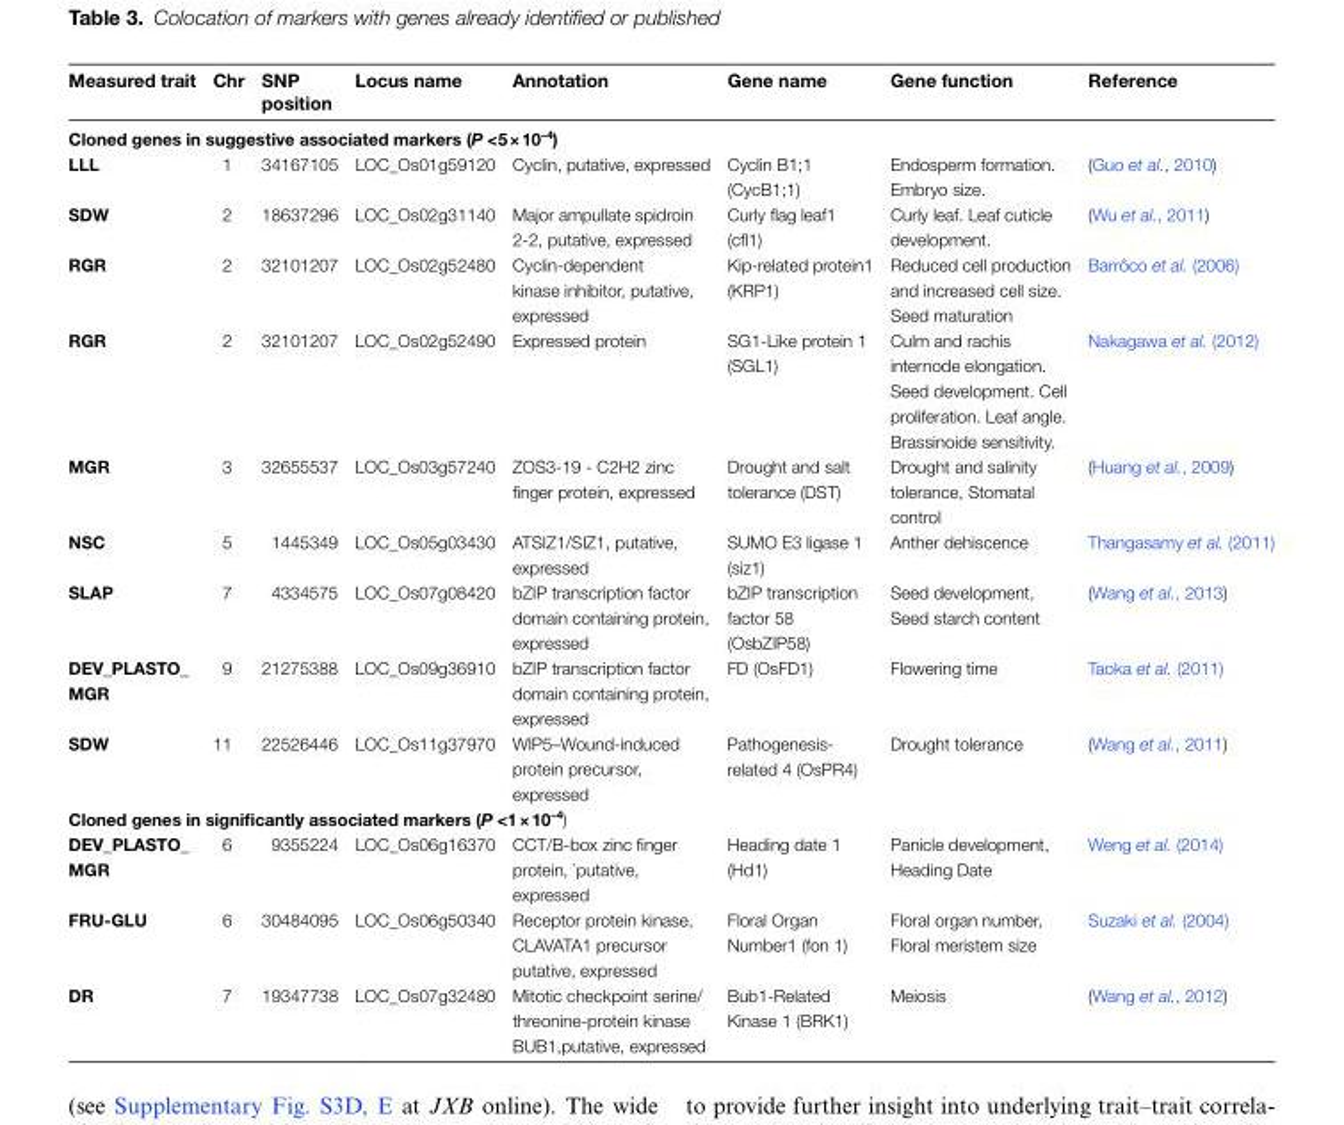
<table><thead><tr><td>Measured trait</td><td>Chr</td><td>SNP position</td><td>Locus name</td><td>Annotation</td><td>Gene name</td><td>Gene function</td><td>Reference</td></tr></thead><tbody><tr><td colspan="8">Cloned genes in suggestive associated markers (P &lt;5 × 10<sup>–4</sup>)</td></tr><tr><td>LLL</td><td>1</td><td>34167105</td><td>LOC_Os01g59120</td><td>Cyclin, putative, expressed</td><td>Cyclin B1;1 (CycB1;1)</td><td>Endosperm formation. Embryo size.</td><td>(Guo et al., 2010)</td></tr><tr><td>SDW</td><td>2</td><td>18637296</td><td>LOC_Os02g31140</td><td>Major ampullate spidroin 2-2, putative, expressed</td><td>Curly flag leaf1 (cfl1)</td><td>Curly leaf. Leaf cuticle development.</td><td>(Wu et al., 2011)</td></tr><tr><td>RGR</td><td>2</td><td>32101207</td><td>LOC_Os02g52480</td><td>Cyclin-dependent kinase inhibitor, putative, expressed</td><td>Kip-related protein1 (KRP1)</td><td>Reduced cell production and increased cell size. Seed maturation</td><td>Barrôco et al. (2006)</td></tr><tr><td>RGR</td><td>2</td><td>32101207</td><td>LOC_Os02g52490</td><td>Expressed protein</td><td>SG1-Like protein 1 (SGL1)</td><td>Culm and rachis internode elongation. Seed development. Cell proliferation. Leaf angle. Brassinoide sensitivity.</td><td>Nakagawa et al. (2012)</td></tr><tr><td>MGR</td><td>3</td><td>32655537</td><td>LOC_Os03g57240</td><td>ZOS3-19 - C2H2 zinc finger protein, expressed</td><td>Drought and salt tolerance (DST)</td><td>Drought and salinity tolerance, Stomatal control</td><td>(Huang et al., 2009)</td></tr><tr><td>NSC</td><td>5</td><td>1445349</td><td>LOC_Os05g03430</td><td>ATSIZ1/SIZ1, putative, expressed</td><td>SUMO E3 ligase 1 (siz1)</td><td>Anther dehiscence</td><td>Thangasamy et al. (2011)</td></tr><tr><td>SLAP</td><td>7</td><td>4334575</td><td>LOC_Os07g08420</td><td>bZIP transcription factor domain containing protein, expressed</td><td>bZIP transcription factor 58 (OsbZIP58)</td><td>Seed development, Seed starch content</td><td>(Wang et al., 2013)</td></tr><tr><td>DEV_PLASTO_ MGR</td><td>9</td><td>21275388</td><td>LOC_Os09g36910</td><td>bZIP transcription factor domain containing protein, expressed</td><td>FD (OsFD1)</td><td>Flowering time</td><td>Taoka et al. (2011)</td></tr><tr><td>SDW</td><td>11</td><td>22526446</td><td>LOC_Os11g37970</td><td>WIP5–Wound-induced protein precursor, expressed</td><td>Pathogenesis- related 4 (OsPR4)</td><td>Drought tolerance</td><td>(Wang et al., 2011)</td></tr><tr><td colspan="8">Cloned genes in significantly associated markers (P &lt;1 × 10<sup>–4</sup>)</td></tr><tr><td>DEV_PLASTO_ MGR</td><td>6</td><td>9355224</td><td>LOC_Os06g16370</td><td>CCT/B-box zinc finger protein, `putative, expressed</td><td>Heading date 1 (Hd1)</td><td>Panicle development, Heading Date</td><td>Weng et al. (2014)</td></tr><tr><td>FRU-GLU</td><td>6</td><td>30484095</td><td>LOC_Os06g50340</td><td>Receptor protein kinase, CLAVATA1 precursor putative, expressed</td><td>Floral Organ Number1 (fon 1)</td><td>Floral organ number, Floral meristem size</td><td>Suzaki et al. (2004)</td></tr><tr><td>DR</td><td>7</td><td>19347738</td><td>LOC_Os07g32480</td><td>Mitotic checkpoint serine/ threonine-protein kinase BUB1,putative, expressed</td><td>Bub1-Related Kinase 1 (BRK1)</td><td>Meiosis</td><td>(Wang et al., 2012)</td></tr></tbody></table>